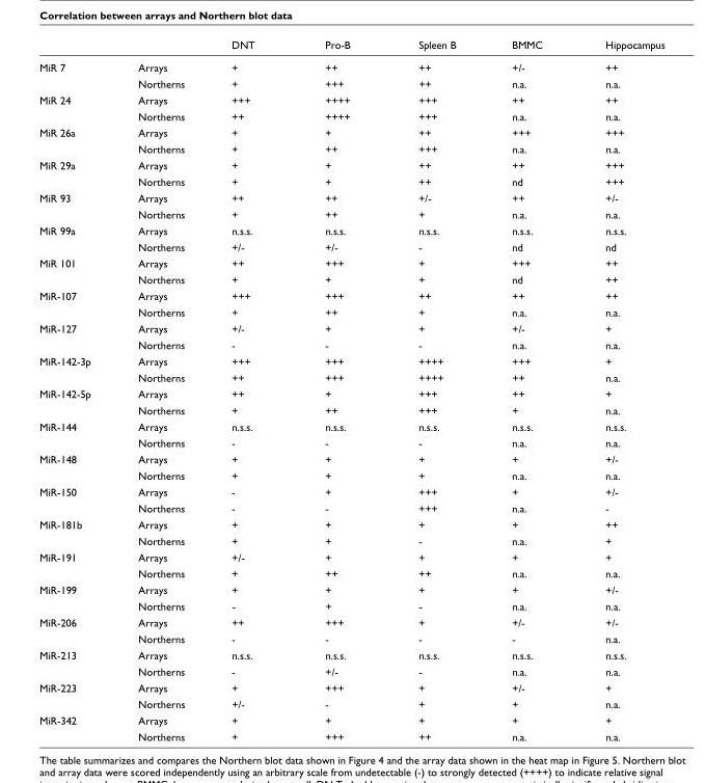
<table><thead><tr><td></td><td></td><td>DNT</td><td>Pro-B</td><td>Spleen B</td><td>BMMC</td><td>Hippocampus</td></tr></thead><tbody><tr><td rowspan="2">MiR 7</td><td>Arrays</td><td>+</td><td>++</td><td>++</td><td>+/-</td><td>++</td></tr><tr><td>Northerns</td><td>+</td><td>+++</td><td>++</td><td>n.a.</td><td>n.a.</td></tr><tr><td rowspan="2">MiR 24</td><td>Arrays</td><td>+++</td><td>++++</td><td>+++</td><td>++</td><td>++</td></tr><tr><td>Northerns</td><td>++</td><td>++++</td><td>+++</td><td>n.a.</td><td>n.a.</td></tr><tr><td rowspan="2">MiR 26a</td><td>Arrays</td><td>+</td><td>+</td><td>++</td><td>+++</td><td>+++</td></tr><tr><td>Northerns</td><td>+</td><td>++</td><td>+++</td><td>n.a.</td><td>n.a.</td></tr><tr><td rowspan="2">MiR 29a</td><td>Arrays</td><td>+</td><td>+</td><td>++</td><td>++</td><td>+++</td></tr><tr><td>Northerns</td><td>+</td><td>+</td><td>++</td><td>nd</td><td>+++</td></tr><tr><td rowspan="2">MiR 93</td><td>Arrays</td><td>++</td><td>++</td><td>+/-</td><td>++</td><td>+/-</td></tr><tr><td>Northerns</td><td>+</td><td>++</td><td>+</td><td>n.a.</td><td>n.a.</td></tr><tr><td rowspan="2">MiR 99a</td><td>Arrays</td><td>n.s.s.</td><td>n.s.s.</td><td>n.s.s.</td><td>n.s.s.</td><td>n.s.s.</td></tr><tr><td>Northerns</td><td>+/-</td><td>+/-</td><td>-</td><td>nd</td><td>nd</td></tr><tr><td rowspan="2">MiR 101</td><td>Arrays</td><td>++</td><td>+++</td><td>+</td><td>+++</td><td>++</td></tr><tr><td>Northerns</td><td>+</td><td>+</td><td>+</td><td>nd</td><td>++</td></tr><tr><td rowspan="2">MiR-107</td><td>Arrays</td><td>+++</td><td>+++</td><td>++</td><td>++</td><td>++</td></tr><tr><td>Northerns</td><td>+</td><td>++</td><td>+</td><td>n.a.</td><td>n.a.</td></tr><tr><td rowspan="2">MiR-127</td><td>Arrays</td><td>+/-</td><td>+</td><td>+</td><td>+/-</td><td>+</td></tr><tr><td>Northerns</td><td>-</td><td>-</td><td>-</td><td>n.a.</td><td>n.a.</td></tr><tr><td rowspan="2">MiR-142-3p</td><td>Arrays</td><td>+++</td><td>+++</td><td>++++</td><td>+++</td><td>+</td></tr><tr><td>Northerns</td><td>++</td><td>+++</td><td>++++</td><td>++</td><td>n.a.</td></tr><tr><td rowspan="2">MiR-142-5p</td><td>Arrays</td><td>++</td><td>+</td><td>+++</td><td>++</td><td>+</td></tr><tr><td>Northerns</td><td>+</td><td>++</td><td>+++</td><td>+</td><td>n.a.</td></tr><tr><td rowspan="2">MiR-144</td><td>Arrays</td><td>n.s.s.</td><td>n.s.s.</td><td>n.s.s.</td><td>n.s.s.</td><td>n.s.s.</td></tr><tr><td>Northerns</td><td>-</td><td>-</td><td>-</td><td>n.a.</td><td>n.a.</td></tr><tr><td rowspan="2">MiR-148</td><td>Arrays</td><td>+</td><td>+</td><td>+</td><td>+</td><td>+/-</td></tr><tr><td>Northerns</td><td>+</td><td>+</td><td>+</td><td>n.a.</td><td>n.a.</td></tr><tr><td rowspan="2">MiR-150</td><td>Arrays</td><td>-</td><td>+</td><td>+++</td><td>+</td><td>+/-</td></tr><tr><td>Northerns</td><td>-</td><td>-</td><td>+++</td><td>n.a.</td><td>-</td></tr><tr><td rowspan="2">MiR-181b</td><td>Arrays</td><td>+</td><td>+</td><td>+</td><td>+</td><td>++</td></tr><tr><td>Northerns</td><td>+</td><td>+</td><td>-</td><td>n.a.</td><td>+</td></tr><tr><td rowspan="2">MiR-191</td><td>Arrays</td><td>+/-</td><td>+</td><td>+</td><td>+</td><td>+</td></tr><tr><td>Northerns</td><td>+</td><td>++</td><td>++</td><td>n.a.</td><td>n.a.</td></tr><tr><td rowspan="2">MiR-199</td><td>Arrays</td><td>+</td><td>+</td><td>+</td><td>+</td><td>+/-</td></tr><tr><td>Northerns</td><td>-</td><td>+</td><td>-</td><td>n.a.</td><td>n.a.</td></tr><tr><td rowspan="2">MiR-206</td><td>Arrays</td><td>++</td><td>+++</td><td>+</td><td>+/-</td><td>+/-</td></tr><tr><td>Northerns</td><td>-</td><td>-</td><td>-</td><td>-</td><td>n.a.</td></tr><tr><td rowspan="2">MiR-213</td><td>Arrays</td><td>n.s.s.</td><td>n.s.s.</td><td>n.s.s.</td><td>n.s.s.</td><td>n.s.s.</td></tr><tr><td>Northerns</td><td>-</td><td>+/-</td><td>-</td><td>n.a.</td><td>n.a.</td></tr><tr><td rowspan="2">MiR-223</td><td>Arrays</td><td>+</td><td>+++</td><td>+</td><td>+/-</td><td>+</td></tr><tr><td>Northerns</td><td>+/-</td><td>-</td><td>+</td><td>+</td><td>n.a.</td></tr><tr><td rowspan="2">MiR-342</td><td>Arrays</td><td>+</td><td>+</td><td>+</td><td>+</td><td>+</td></tr><tr><td>Northerns</td><td>+</td><td>+++</td><td>++</td><td>n.a.</td><td>n.a.</td></tr></tbody></table>